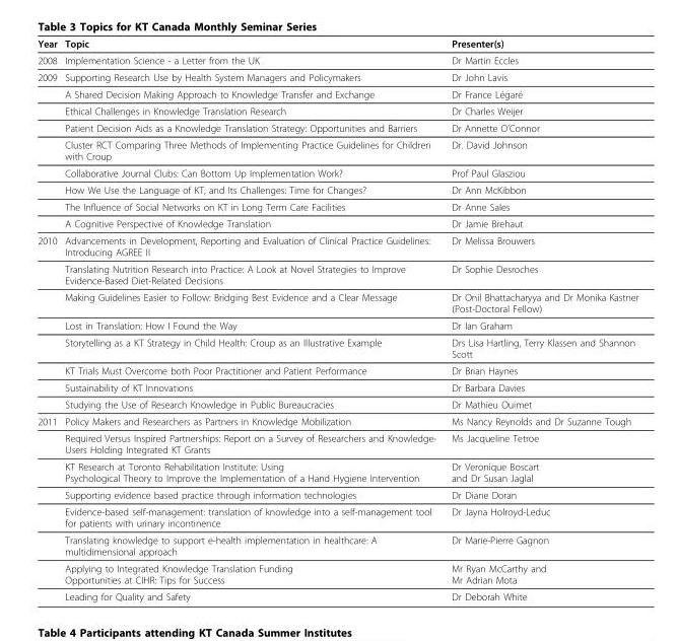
<table><thead><tr><td>Year</td><td>Topic</td><td>Presenter(s)</td></tr></thead><tbody><tr><td>2008</td><td>Implementation Science - a Letter from the UK</td><td>Dr Martin Eccles</td></tr><tr><td rowspan="9">2009</td><td>Supporting Research Use by Health System Managers and Policymakers</td><td>Dr John Lavis</td></tr><tr><td>A Shared Decision Making Approach to Knowledge Transfer and Exchange</td><td>Dr France Légaré</td></tr><tr><td>Ethical Challenges in Knowledge Translation Research</td><td>Dr Charles Weijer</td></tr><tr><td>Patient Decision Aids as a Knowledge Translation Strategy: Opportunities and Barriers</td><td>Dr Annette O’Connor</td></tr><tr><td>Cluster RCT Comparing Three Methods of Implementing Practice Guidelines for Children with Croup</td><td>Dr. David Johnson</td></tr><tr><td>Collaborative Journal Clubs: Can Bottom Up Implementation Work?</td><td>Prof Paul Glasziou</td></tr><tr><td>How We Use the Language of KT, and Its Challenges: Time for Changes?</td><td>Dr Ann McKibbon</td></tr><tr><td>The Influence of Social Networks on KT in Long Term Care Facilities</td><td>Dr Anne Sales</td></tr><tr><td>A Cognitive Perspective of Knowledge Translation</td><td>Dr Jamie Brehaut</td></tr><tr><td rowspan="8">2010</td><td>Advancements in Development, Reporting and Evaluation of Clinical Practice Guidelines: Introducing AGREE II</td><td>Dr Melissa Brouwers</td></tr><tr><td>Translating Nutrition Research into Practice: A Look at Novel Strategies to Improve Evidence-Based Diet-Related Decisions</td><td>Dr Sophie Desroches</td></tr><tr><td>Making Guidelines Easier to Follow: Bridging Best Evidence and a Clear Message</td><td>Dr Onil Bhattacharyya and Dr Monika Kastner (Post-Doctoral Fellow)</td></tr><tr><td>Lost in Translation: How I Found the Way</td><td>Dr Ian Graham</td></tr><tr><td>Storytelling as a KT Strategy in Child Health: Croup as an Illustrative Example</td><td>Drs Lisa Hartling, Terry Klassen and Shannon Scott</td></tr><tr><td>KT Trials Must Overcome both Poor Practitioner and Patient Performance</td><td>Dr Brian Haynes</td></tr><tr><td>Sustainability of KT Innovations</td><td>Dr Barbara Davies</td></tr><tr><td>Studying the Use of Research Knowledge in Public Bureaucracies</td><td>Dr Mathieu Ouimet</td></tr><tr><td rowspan="8">2011</td><td>Policy Makers and Researchers as Partners in Knowledge Mobilization</td><td>Ms Nancy Reynolds and Dr Suzanne Tough</td></tr><tr><td>Required Versus Inspired Partnerships: Report on a Survey of Researchers and Knowledge- Users Holding Integrated KT Grants</td><td>Ms Jacqueline Tetroe</td></tr><tr><td>KT Research at Toronto Rehabilitation Institute: Using Psychological Theory to Improve the Implementation of a Hand Hygiene Intervention</td><td>Dr Veronique Boscart and Dr Susan Jaglal</td></tr><tr><td>Supporting evidence based practice through information technologies</td><td>Dr Diane Doran</td></tr><tr><td>Evidence-based self-management: translation of knowledge into a self-management tool for patients with urinary incontinence</td><td>Dr Jayna Holroyd-Leduc</td></tr><tr><td>Translating knowledge to support e-health implementation in healthcare: A multidimensional approach</td><td>Dr Marie-Pierre Gagnon</td></tr><tr><td>Applying to Integrated Knowledge Translation Funding Opportunities at CIHR: Tips for Success</td><td>Mr Ryan McCarthy and Mr Adrian Mota</td></tr><tr><td>Leading for Quality and Safety</td><td>Dr Deborah White</td></tr></tbody></table>